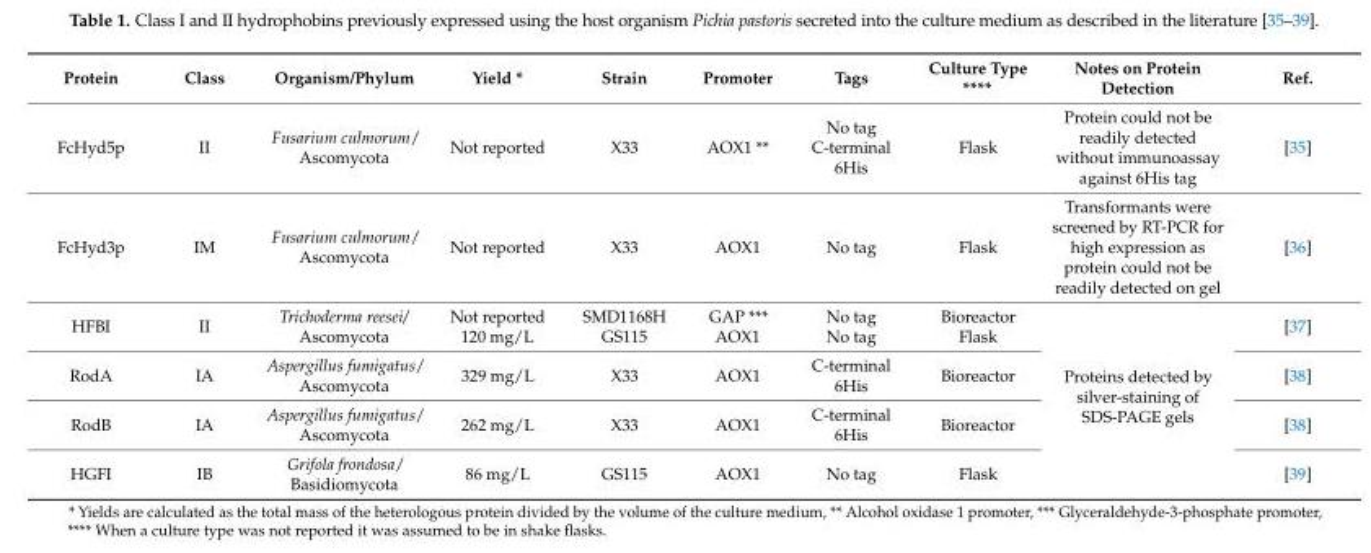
<table><thead><tr><td>Protein</td><td>Class</td><td>Organism/Phylum</td><td>Yield *</td><td>Strain</td><td>Promoter</td><td>Tags</td><td>Culture Type ****</td><td>Notes on Protein Detection</td><td>Ref.</td></tr></thead><tbody><tr><td>FcHyd5p</td><td>II</td><td>Fusarium culmorum/ Ascomycota</td><td>Not reported</td><td>X33</td><td>AOX1 **</td><td>No tag C-terminal 6His</td><td>Flask</td><td>Protein could not be readily detected without immunoassay against 6His tag</td><td>[35]</td></tr><tr><td>FcHyd3p</td><td>IM</td><td>Fusarium culmorum/ Ascomycota</td><td>Not reported</td><td>X33</td><td>AOX1</td><td>No tag</td><td>Flask</td><td>Transformants were screened by RT-PCR for high expression as protein could not be readily detected on gel</td><td>[36]</td></tr><tr><td>HFBI</td><td>II</td><td>Trichoderma reesei/ Ascomycota</td><td>Not reported 120 mg/L</td><td>SMD1168H GS115</td><td>GAP *** AOX1</td><td>No tag No tag</td><td>Bioreactor Flask</td><td rowspan="4">Proteins detected by silver-staining of SDS-PAGE gels</td><td>[37]</td></tr><tr><td>RodA</td><td>IA</td><td>Aspergillus fumigatus/ Ascomycota</td><td>329 mg/L</td><td>X33</td><td>AOX1</td><td>C-terminal 6His</td><td>Bioreactor</td><td>[38]</td></tr><tr><td>RodB</td><td>IA</td><td>Aspergillus fumigatus/ Ascomycota</td><td>262 mg/L</td><td>X33</td><td>AOX1</td><td>C-terminal 6His</td><td>Bioreactor</td><td>[38]</td></tr><tr><td>HGFI</td><td>IB</td><td>Grifola frondosa/ Basidiomycota</td><td>86 mg/L</td><td>GS115</td><td>AOX1</td><td>No tag</td><td>Flask</td><td>[39]</td></tr></tbody></table>